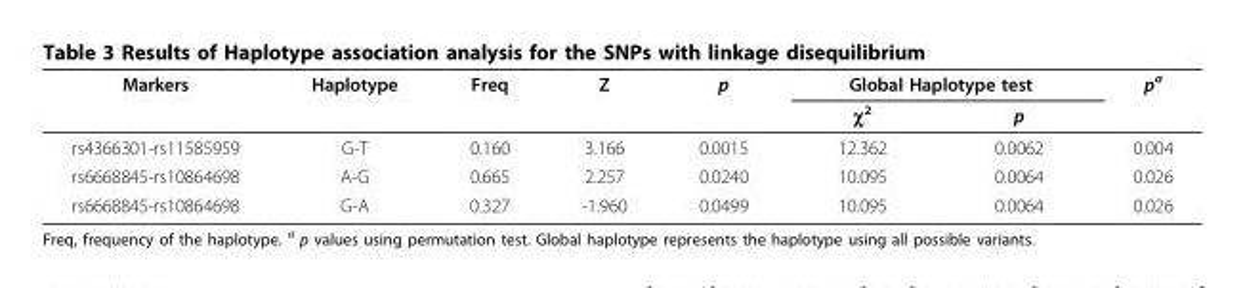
<table><thead><tr><td rowspan="2">Markers</td><td rowspan="2">Haplotype</td><td rowspan="2">Freq</td><td rowspan="2">Z</td><td rowspan="2">p</td><td colspan="2">Global Haplotype test</td><td rowspan="2">p<sup>a</sup></td></tr><tr><td>χ<sup>2</sup></td><td>p</td></tr></thead><tbody><tr><td>rs4366301-rs11585959</td><td>G-T</td><td>0.160</td><td>3.166</td><td>0.0015</td><td>12.362</td><td>0.0062</td><td>0.004</td></tr><tr><td>rs6668845-rs10864698</td><td>A-G</td><td>0.665</td><td>2.257</td><td>0.0240</td><td>10.095</td><td>0.0064</td><td>0.026</td></tr><tr><td>rs6668845-rs10864698</td><td>G-A</td><td>0.327</td><td>-1.960</td><td>0.0499</td><td>10.095</td><td>0.0064</td><td>0.026</td></tr></tbody></table>